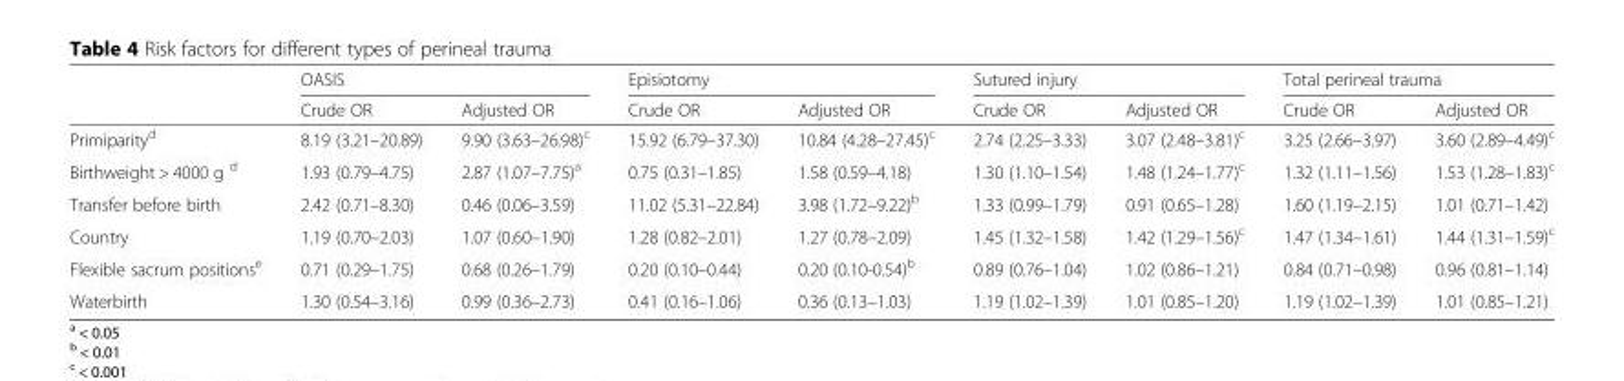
<table><thead><tr><td rowspan="2"></td><td colspan="2">OASIS</td><td colspan="2">Episiotomy</td><td colspan="2">Sutured injury</td><td colspan="2">Total perineal trauma</td></tr><tr><td>Crude OR</td><td>Adjusted OR</td><td>Crude OR</td><td>Adjusted OR</td><td>Crude OR</td><td>Adjusted OR</td><td>Crude OR</td><td>Adjusted OR</td></tr></thead><tbody><tr><td>Primiparity<sup>d</sup></td><td>8.19 (3.21–20.89)</td><td>9.90 (3.63–26.98)<sup>c</sup></td><td>15.92 (6.79–37.30)</td><td>10.84 (4.28–27.45)<sup>c</sup></td><td>2.74 (2.25–3.33)</td><td>3.07 (2.48–3.81)<sup>c</sup></td><td>3.25 (2.66–3.97)</td><td>3.60 (2.89–4.49)<sup>c</sup></td></tr><tr><td>Birthweight &gt; 4000 g <sup>d</sup></td><td>1.93 (0.79–4.75)</td><td>2.87 (1.07–7.75)<sup>a</sup></td><td>0.75 (0.31–1.85)</td><td>1.58 (0.59–4.18)</td><td>1.30 (1.10–1.54)</td><td>1.48 (1.24–1.77)<sup>c</sup></td><td>1.32 (1.11–1.56)</td><td>1.53 (1.28–1.83)<sup>c</sup></td></tr><tr><td>Transfer before birth</td><td>2.42 (0.71–8.30)</td><td>0.46 (0.06–3.59)</td><td>11.02 (5.31–22.84)</td><td>3.98 (1.72–9.22)<sup>b</sup></td><td>1.33 (0.99–1.79)</td><td>0.91 (0.65–1.28)</td><td>1.60 (1.19–2.15)</td><td>1.01 (0.71–1.42)</td></tr><tr><td>Country</td><td>1.19 (0.70–2.03)</td><td>1.07 (0.60–1.90)</td><td>1.28 (0.82–2.01)</td><td>1.27 (0.78–2.09)</td><td>1.45 (1.32–1.58)</td><td>1.42 (1.29–1.56)<sup>c</sup></td><td>1.47 (1.34–1.61)</td><td>1.44 (1.31–1.59)<sup>c</sup></td></tr><tr><td>Flexible sacrum positions<sup>e</sup></td><td>0.71 (0.29–1.75)</td><td>0.68 (0.26–1.79)</td><td>0.20 (0.10–0.44)</td><td>0.20 (0.10-0.54)<sup>b</sup></td><td>0.89 (0.76–1.04)</td><td>1.02 (0.86–1.21)</td><td>0.84 (0.71–0.98)</td><td>0.96 (0.81–1.14)</td></tr><tr><td>Waterbirth</td><td>1.30 (0.54–3.16)</td><td>0.99 (0.36–2.73)</td><td>0.41 (0.16–1.06)</td><td>0.36 (0.13–1.03)</td><td>1.19 (1.02–1.39)</td><td>1.01 (0.85–1.20)</td><td>1.19 (1.02–1.39)</td><td>1.01 (0.85–1.21)</td></tr></tbody></table>